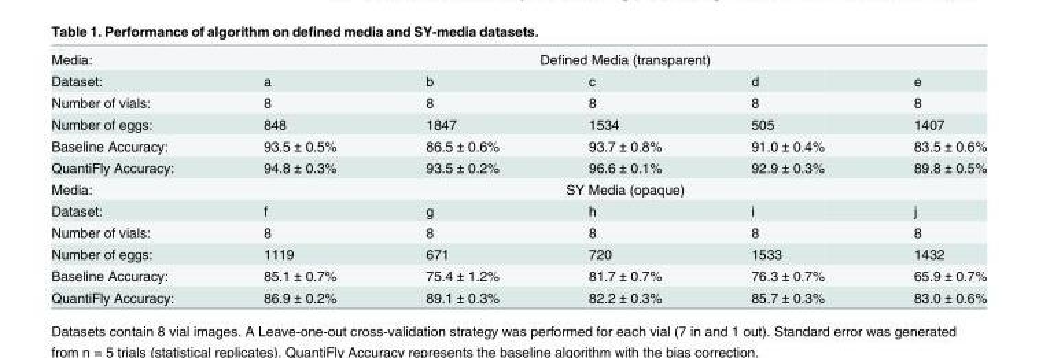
<table><tbody><tr><td>Media:</td><td colspan="5">Defined Media (transparent)</td></tr><tr><td>Dataset:</td><td>a</td><td>b</td><td>c</td><td>d</td><td>e</td></tr><tr><td>Number of vials:</td><td>8</td><td>8</td><td>8</td><td>8</td><td>8</td></tr><tr><td>Number of eggs:</td><td>848</td><td>1847</td><td>1534</td><td>505</td><td>1407</td></tr><tr><td>Baseline Accuracy:</td><td>93.5 ± 0.5%</td><td>86.5 ± 0.6%</td><td>93.7 ± 0.8%</td><td>91.0 ± 0.4%</td><td>83.5 ± 0.6%</td></tr><tr><td>QuantiFly Accuracy:</td><td>94.8 ± 0.3%</td><td>93.5 ± 0.2%</td><td>96.6 ± 0.1%</td><td>92.9 ± 0.3%</td><td>89.8 ± 0.5%</td></tr><tr><td>Media:</td><td colspan="5">SY Media (opaque)</td></tr><tr><td>Dataset:</td><td>f</td><td>g</td><td>h</td><td>i</td><td>j</td></tr><tr><td>Number of vials:</td><td>8</td><td>8</td><td>8</td><td>8</td><td>8</td></tr><tr><td>Number of eggs:</td><td>1119</td><td>671</td><td>720</td><td>1533</td><td>1432</td></tr><tr><td>Baseline Accuracy:</td><td>85.1 ± 0.7%</td><td>75.4 ± 1.2%</td><td>81.7 ± 0.7%</td><td>76.3 ± 0.7%</td><td>65.9 ± 0.7%</td></tr><tr><td>QuantiFly Accuracy:</td><td>86.9 ± 0.2%</td><td>89.1 ± 0.3%</td><td>82.2 ± 0.3%</td><td>85.7 ± 0.3%</td><td>83.0 ± 0.6%</td></tr></tbody></table>